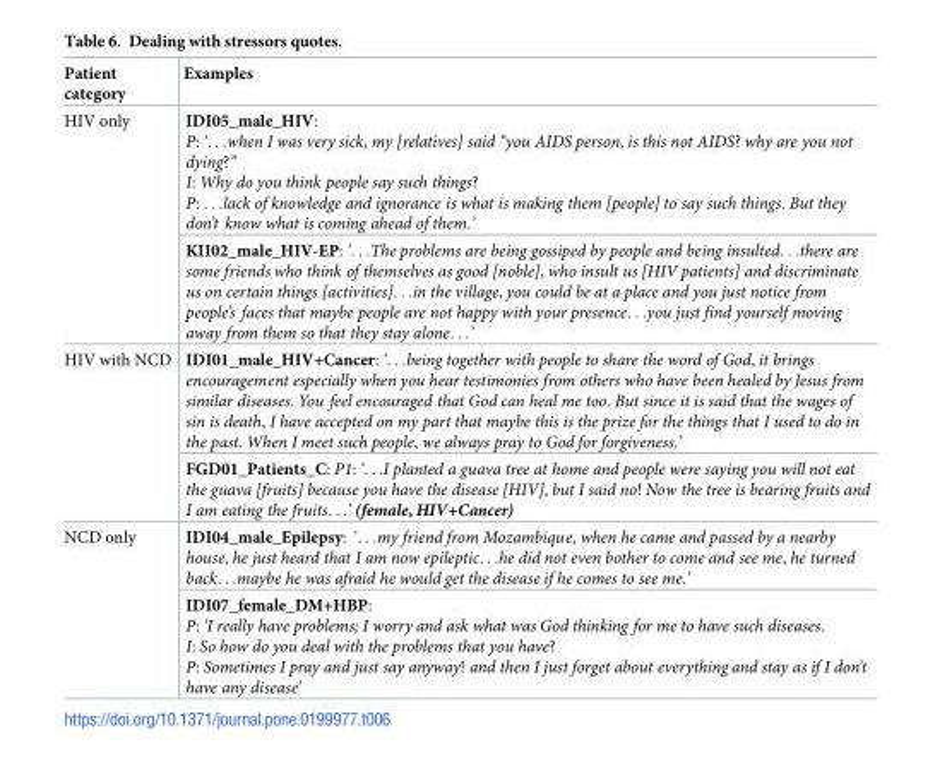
<table><thead><tr><td>Patient category</td><td>Examples</td></tr></thead><tbody><tr><td rowspan="2">HIV only</td><td>IDI05_male_HIV: P: ‘. . .when I was very sick, my [relatives] said “you AIDS person, is this not AIDS? why are you not dying?” I: Why do you think people say such things? P: . . .lack of knowledge and ignorance is what is making them [people] to say such things. But they don’t know what is coming ahead of them.’</td></tr><tr><td>KII02_male_HIV-EP: ‘. . .The problems are being gossiped by people and being insulted. . .there are some friends who think of themselves as good [noble], who insult us [HIV patients] and discriminate us on certain things [activities].. .in the village, you could be at a place and you just notice from people’s faces that maybe people are not happy with your presence. . .you just find yourself moving away from them so that they stay alone. . .’</td></tr><tr><td rowspan="2">HIV with NCD</td><td>IDI01_male_HIV+Cancer: ‘. . .being together with people to share the word of God, it brings encouragement especially when you hear testimonies from others who have been healed by Jesus from similar diseases. You feel encouraged that God can heal me too. But since it is said that the wages of sin is death, I have accepted on my part that maybe this is the prize for the things that I used to do in the past. When I meet such people, we always pray to God for forgiveness.’</td></tr><tr><td>FGD01_Patients_C: P1: ‘. . .I planted a guava tree at home and people were saying you will not eat the guava [fruits] because you have the disease [HIV], but I said no! Now the tree is bearing fruits and I am eating the fruits. . .’ (female, HIV+Cancer)</td></tr><tr><td rowspan="2">NCD only</td><td>IDI04_male_Epilepsy: ´. . .my friend from Mozambique, when he came and passed by a nearby house, he just heard that I am now epileptic. . .he did not even bother to come and see me, he turned back. . .maybe he was afraid he would get the disease if he comes to see me.’</td></tr><tr><td>IDI07_female_DM+HBP: P: ‘I really have problems; I worry and ask what was God thinking for me to have such diseases. I: So how do you deal with the problems that you have? P: Sometimes I pray and just say anyway! and then I just forget about everything and stay as if I don’t have any disease’</td></tr></tbody></table>